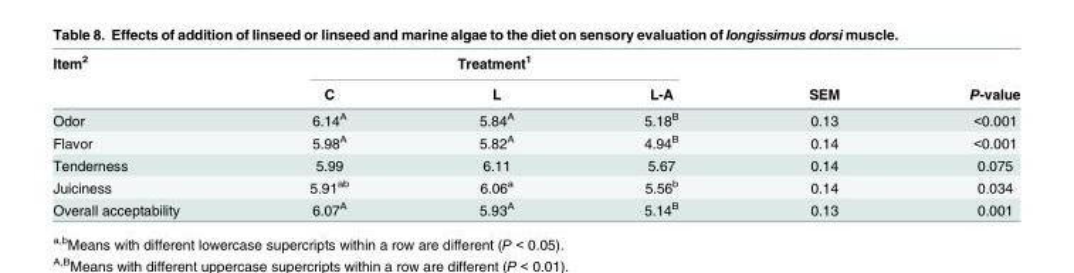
<table><thead><tr><td rowspan="2">Item<sup>2</sup></td><td colspan="3">Treatment<sup>1</sup></td><td rowspan="2">SEM</td><td rowspan="2">P-value</td></tr><tr><td>C</td><td>L</td><td>L-A</td></tr></thead><tbody><tr><td>Odor</td><td>6.14<sup>A</sup></td><td>5.84<sup>A</sup></td><td>5.18<sup>B</sup></td><td>0.13</td><td>&lt;0.001</td></tr><tr><td>Flavor</td><td>5.98<sup>A</sup></td><td>5.82<sup>A</sup></td><td>4.94<sup>B</sup></td><td>0.14</td><td>&lt;0.001</td></tr><tr><td>Tenderness</td><td>5.99</td><td>6.11</td><td>5.67</td><td>0.14</td><td>0.075</td></tr><tr><td>Juiciness</td><td>5.91<sup>ab</sup></td><td>6.06<sup>a</sup></td><td>5.56<sup>b</sup></td><td>0.14</td><td>0.034</td></tr><tr><td>Overall acceptability</td><td>6.07<sup>A</sup></td><td>5.93<sup>A</sup></td><td>5.14<sup>B</sup></td><td>0.13</td><td>0.001</td></tr></tbody></table>